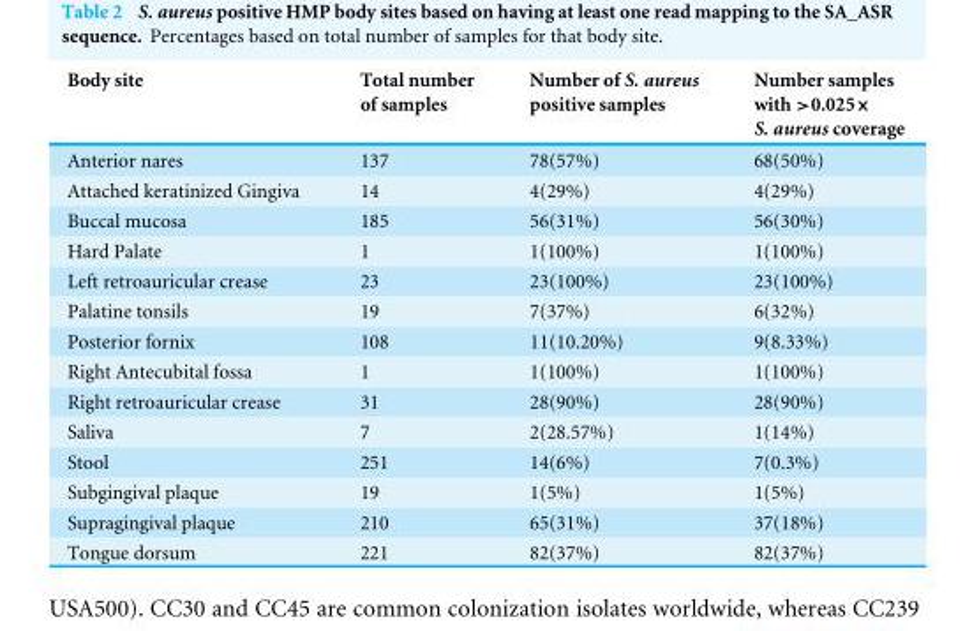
<table><thead><tr><td>Body site</td><td>Total number of samples</td><td>Number of S. aureus positive samples</td><td>Number samples with &gt;0.025× S. aureus coverage</td></tr></thead><tbody><tr><td>Anterior nares</td><td>137</td><td>78(57%)</td><td>68(50%)</td></tr><tr><td>Attached keratinized Gingiva</td><td>14</td><td>4(29%)</td><td>4(29%)</td></tr><tr><td>Buccal mucosa</td><td>185</td><td>56(31%)</td><td>56(30%)</td></tr><tr><td>Hard Palate</td><td>1</td><td>1(100%)</td><td>1(100%)</td></tr><tr><td>Left retroauricular crease</td><td>23</td><td>23(100%)</td><td>23(100%)</td></tr><tr><td>Palatine tonsils</td><td>19</td><td>7(37%)</td><td>6(32%)</td></tr><tr><td>Posterior fornix</td><td>108</td><td>11(10.20%)</td><td>9(8.33%)</td></tr><tr><td>Right Antecubital fossa</td><td>1</td><td>1(100%)</td><td>1(100%)</td></tr><tr><td>Right retroauricular crease</td><td>31</td><td>28(90%)</td><td>28(90%)</td></tr><tr><td>Saliva</td><td>7</td><td>2(28.57%)</td><td>1(14%)</td></tr><tr><td>Stool</td><td>251</td><td>14(6%)</td><td>7(0.3%)</td></tr><tr><td>Subgingival plaque</td><td>19</td><td>1(5%)</td><td>1(5%)</td></tr><tr><td>Supragingival plaque</td><td>210</td><td>65(31%)</td><td>37(18%)</td></tr><tr><td>Tongue dorsum</td><td>221</td><td>82(37%)</td><td>82(37%)</td></tr></tbody></table>